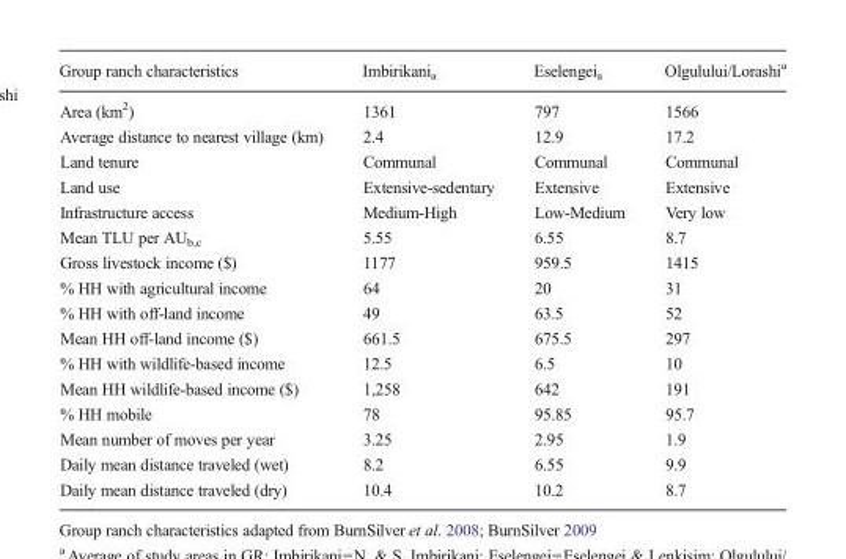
<table><thead><tr><td>Group ranch characteristics</td><td>Imbirikani<sub>a</sub></td><td>Eselengei<sub>a</sub></td><td>Olgulului/Lorashi<sup>a</sup></td></tr></thead><tbody><tr><td>Area (km<sup>2</sup>)</td><td>1361</td><td>797</td><td>1566</td></tr><tr><td>Average distance to nearest village (km)</td><td>2.4</td><td>12.9</td><td>17.2</td></tr><tr><td>Land tenure</td><td>Communal</td><td>Communal</td><td>Communal</td></tr><tr><td>Land use</td><td>Extensive-sedentary</td><td>Extensive</td><td>Extensive</td></tr><tr><td>Infrastructure access</td><td>Medium-High</td><td>Low-Medium</td><td>Very low</td></tr><tr><td>Mean TLU per AU<sub>b,c</sub></td><td>5.55</td><td>6.55</td><td>8.7</td></tr><tr><td>Gross livestock income ($)</td><td>1177</td><td>959.5</td><td>1415</td></tr><tr><td>% HH with agricultural income</td><td>64</td><td>20</td><td>31</td></tr><tr><td>% HH with off-land income</td><td>49</td><td>63.5</td><td>52</td></tr><tr><td>Mean HH off-land income ($)</td><td>661.5</td><td>675.5</td><td>297</td></tr><tr><td>% HH with wildlife-based income</td><td>12.5</td><td>6.5</td><td>10</td></tr><tr><td>Mean HH wildlife-based income ($)</td><td>1,258</td><td>642</td><td>191</td></tr><tr><td>% HH mobile</td><td>78</td><td>95.85</td><td>95.7</td></tr><tr><td>Mean number of moves per year</td><td>3.25</td><td>2.95</td><td>1.9</td></tr><tr><td>Daily mean distance traveled (wet)</td><td>8.2</td><td>6.55</td><td>9.9</td></tr><tr><td>Daily mean distance traveled (dry)</td><td>10.4</td><td>10.2</td><td>8.7</td></tr></tbody></table>